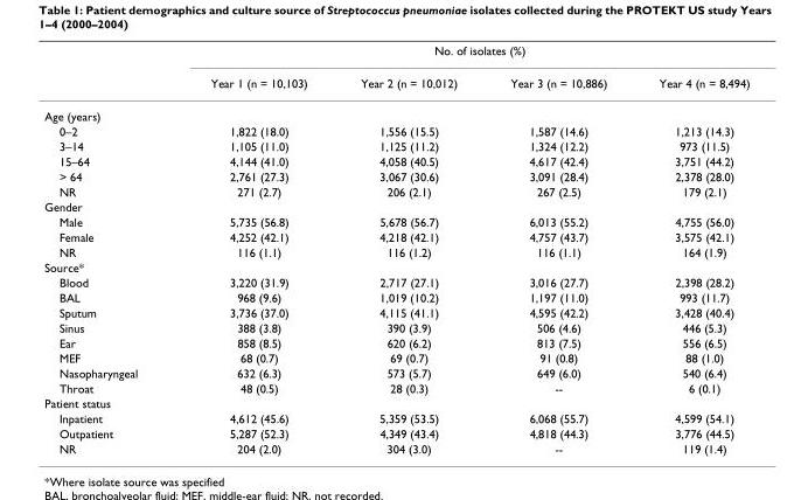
<table><thead><tr><td rowspan="2"></td><td colspan="4">No. of isolates (%)</td></tr><tr><td>Year 1 (n = 10,103)</td><td>Year 2 (n = 10,012)</td><td>Year 3 (n = 10,886)</td><td>Year 4 (n = 8,494)</td></tr></thead><tbody><tr><td colspan="5">Age (years)</td></tr><tr><td>0–2</td><td>1,822 (18.0)</td><td>1,556 (15.5)</td><td>1,587 (14.6)</td><td>1,213 (14.3)</td></tr><tr><td>3–14</td><td>1,105 (11.0)</td><td>1,125 (11.2)</td><td>1,324 (12.2)</td><td>973 (11.5)</td></tr><tr><td>15–64</td><td>4,144 (41.0)</td><td>4,058 (40.5)</td><td>4,617 (42.4)</td><td>3,751 (44.2)</td></tr><tr><td>&gt; 64</td><td>2,761 (27.3)</td><td>3,067 (30.6)</td><td>3,091 (28.4)</td><td>2,378 (28.0)</td></tr><tr><td>NR</td><td>271 (2.7)</td><td>206 (2.1)</td><td>267 (2.5)</td><td>179 (2.1)</td></tr><tr><td colspan="5">Gender</td></tr><tr><td>Male</td><td>5,735 (56.8)</td><td>5,678 (56.7)</td><td>6,013 (55.2)</td><td>4,755 (56.0)</td></tr><tr><td>Female</td><td>4,252 (42.1)</td><td>4,218 (42.1)</td><td>4,757 (43.7)</td><td>3,575 (42.1)</td></tr><tr><td>NR</td><td>116 (1.1)</td><td>116 (1.2)</td><td>116 (1.1)</td><td>164 (1.9)</td></tr><tr><td colspan="5">Source*</td></tr><tr><td>Blood</td><td>3,220 (31.9)</td><td>2,717 (27.1)</td><td>3,016 (27.7)</td><td>2,398 (28.2)</td></tr><tr><td>BAL</td><td>968 (9.6)</td><td>1,019 (10.2)</td><td>1,197 (11.0)</td><td>993 (11.7)</td></tr><tr><td>Sputum</td><td>3,736 (37.0)</td><td>4,115 (41.1)</td><td>4,595 (42.2)</td><td>3,428 (40.4)</td></tr><tr><td>Sinus</td><td>388 (3.8)</td><td>390 (3.9)</td><td>506 (4.6)</td><td>446 (5.3)</td></tr><tr><td>Ear</td><td>858 (8.5)</td><td>620 (6.2)</td><td>813 (7.5)</td><td>556 (6.5)</td></tr><tr><td>MEF</td><td>68 (0.7)</td><td>69 (0.7)</td><td>91 (0.8)</td><td>88 (1.0)</td></tr><tr><td>Nasopharyngeal</td><td>632 (6.3)</td><td>573 (5.7)</td><td>649 (6.0)</td><td>540 (6.4)</td></tr><tr><td>Throat</td><td>48 (0.5)</td><td>28 (0.3)</td><td>--</td><td>6 (0.1)</td></tr><tr><td colspan="5">Patient status</td></tr><tr><td>Inpatient</td><td>4,612 (45.6)</td><td>5,359 (53.5)</td><td>6,068 (55.7)</td><td>4,599 (54.1)</td></tr><tr><td>Outpatient</td><td>5,287 (52.3)</td><td>4,349 (43.4)</td><td>4,818 (44.3)</td><td>3,776 (44.5)</td></tr><tr><td>NR</td><td>204 (2.0)</td><td>304 (3.0)</td><td>--</td><td>119 (1.4)</td></tr></tbody></table>